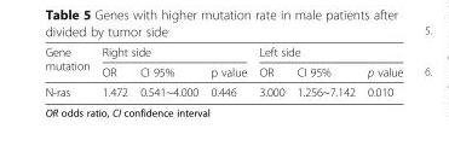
<table><thead><tr><td rowspan="2">Gene mutation</td><td colspan="3">Right side</td><td colspan="3">Left side</td></tr><tr><td>OR</td><td>CI 95%</td><td>p value</td><td>OR</td><td>CI 95%</td><td>p value</td></tr></thead><tbody><tr><td>N-ras</td><td>1.472</td><td>0.541~4.000</td><td>0.446</td><td>3.000</td><td>1.256~7.142</td><td>0.010</td></tr></tbody></table>